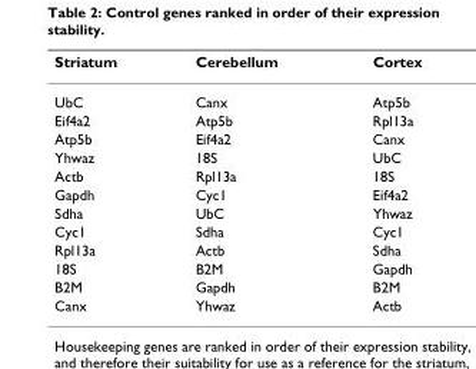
<table><thead><tr><td>Striatum</td><td>Cerebellum</td><td>Cortex</td></tr></thead><tbody><tr><td>UbC</td><td>Canx</td><td>Atp5b</td></tr><tr><td>Eif4a2</td><td>Atp5b</td><td>Rpl13a</td></tr><tr><td>Atp5b</td><td>Eif4a2</td><td>Canx</td></tr><tr><td>Yhwaz</td><td>18S</td><td>UbC</td></tr><tr><td>Actb</td><td>Rpl13a</td><td>18S</td></tr><tr><td>Gapdh</td><td>Cyc1</td><td>Eif4a2</td></tr><tr><td>Sdha</td><td>UbC</td><td>Yhwaz</td></tr><tr><td>Cyc1</td><td>Sdha</td><td>Cyc1</td></tr><tr><td>Rpl13a</td><td>Actb</td><td>Sdha</td></tr><tr><td>18S</td><td>B2M</td><td>Gapdh</td></tr><tr><td>B2M</td><td>Gapdh</td><td>B2M</td></tr><tr><td>Canx</td><td>Yhwaz</td><td>Actb</td></tr></tbody></table>